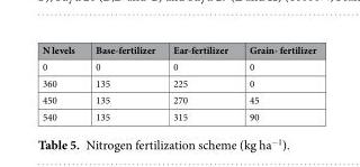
<table><thead><tr><td>N levels</td><td>Base-fertilizer</td><td>Ear-fertilizer</td><td>Grain- fertilizer</td></tr></thead><tbody><tr><td>0</td><td>0</td><td>0</td><td>0</td></tr><tr><td>360</td><td>135</td><td>225</td><td>0</td></tr><tr><td>450</td><td>135</td><td>270</td><td>45</td></tr><tr><td>540</td><td>135</td><td>315</td><td>90</td></tr></tbody></table>